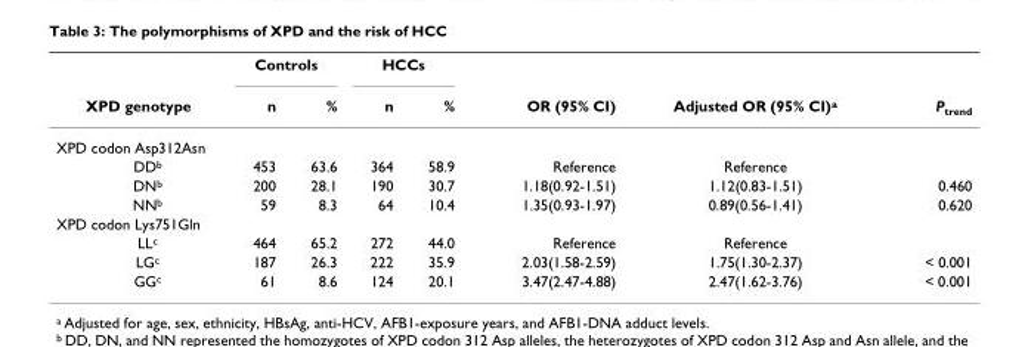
<table><thead><tr><td rowspan="2">XPD genotype</td><td colspan="2">Controls</td><td colspan="2">HCCs</td><td rowspan="2">OR (95% CI)</td><td rowspan="2">Adjusted OR (95% CI)<sup>a</sup></td><td rowspan="2">P<sub>trend</sub></td></tr><tr><td>n</td><td>%</td><td>n</td><td>%</td></tr></thead><tbody><tr><td colspan="8">XPD codon Asp312Asn</td></tr><tr><td>DD<sup>b</sup></td><td>453</td><td>63.6</td><td>364</td><td>58.9</td><td>Reference</td><td>Reference</td><td></td></tr><tr><td>DN<sup>b</sup></td><td>200</td><td>28.1</td><td>190</td><td>30.7</td><td>1.18(0.92-1.51)</td><td>1.12(0.83-1.51)</td><td>0.460</td></tr><tr><td>NN<sup>b</sup></td><td>59</td><td>8.3</td><td>64</td><td>10.4</td><td>1.35(0.93-1.97)</td><td>0.89(0.56-1.41)</td><td>0.620</td></tr><tr><td colspan="8">XPD codon Lys751Gln</td></tr><tr><td>LL<sup>c</sup></td><td>464</td><td>65.2</td><td>272</td><td>44.0</td><td>Reference</td><td>Reference</td><td></td></tr><tr><td>LG<sup>c</sup></td><td>187</td><td>26.3</td><td>222</td><td>35.9</td><td>2.03(1.58-2.59)</td><td>1.75(1.30-2.37)</td><td>&lt; 0.001</td></tr><tr><td>GG<sup>c</sup></td><td>61</td><td>8.6</td><td>124</td><td>20.1</td><td>3.47(2.47-4.88)</td><td>2.47(1.62-3.76)</td><td>&lt; 0.001</td></tr></tbody></table>